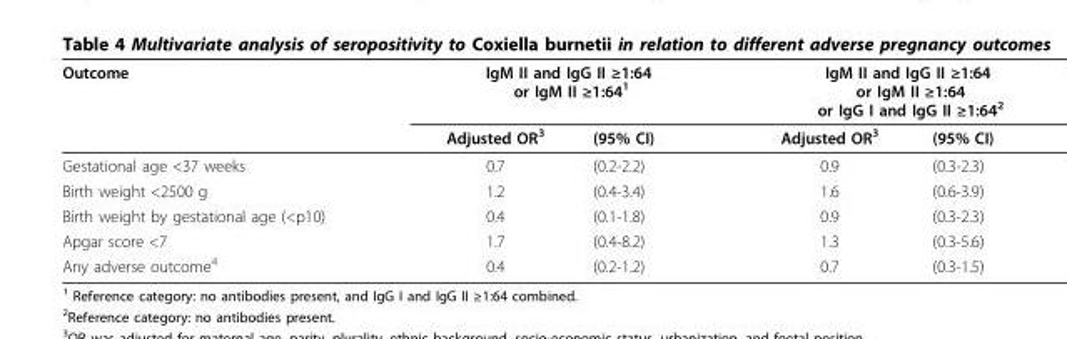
<table><thead><tr><td rowspan="2">Outcome</td><td colspan="2">IgM II and IgG II ≥1:64 or IgM II ≥1:64<sup>1</sup></td><td colspan="2">IgM II and IgG II ≥1:64 or IgM II ≥1:64 or IgG I and IgG II ≥1:64<sup>2</sup></td></tr><tr><td>Adjusted OR<sup>3</sup></td><td>(95% CI)</td><td>Adjusted OR<sup>3</sup></td><td>(95% CI)</td></tr></thead><tbody><tr><td>Gestational age &lt;37 weeks</td><td>0.7</td><td>(0.2-2.2)</td><td>0.9</td><td>(0.3-2.3)</td></tr><tr><td>Birth weight &lt;2500 g</td><td>1.2</td><td>(0.4-3.4)</td><td>1.6</td><td>(0.6-3.9)</td></tr><tr><td>Birth weight by gestational age (&lt;p10)</td><td>0.4</td><td>(0.1-1.8)</td><td>0.9</td><td>(0.3-2.3)</td></tr><tr><td>Apgar score &lt;7</td><td>1.7</td><td>(0.4-8.2)</td><td>1.3</td><td>(0.3-5.6)</td></tr><tr><td>Any adverse outcome<sup>4</sup></td><td>0.4</td><td>(0.2-1.2)</td><td>0.7</td><td>(0.3-1.5)</td></tr></tbody></table>